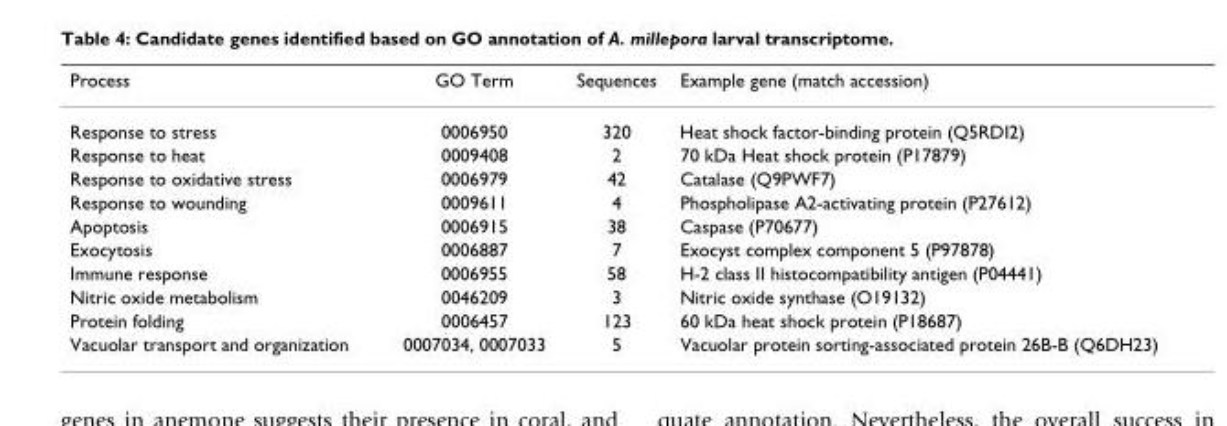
<table><thead><tr><td>Process</td><td>GO Term</td><td>Sequences</td><td>Example gene (match accession)</td></tr></thead><tbody><tr><td>Response to stress</td><td>0006950</td><td>320</td><td>Heat shock factor-binding protein (Q5RDI2)</td></tr><tr><td>Response to heat</td><td>0009408</td><td>2</td><td>70 kDa Heat shock protein (P17879)</td></tr><tr><td>Response to oxidative stress</td><td>0006979</td><td>42</td><td>Catalase (Q9PWF7)</td></tr><tr><td>Response to wounding</td><td>0009611</td><td>4</td><td>Phospholipase A2-activating protein (P27612)</td></tr><tr><td>Apoptosis</td><td>0006915</td><td>38</td><td>Caspase (P70677)</td></tr><tr><td>Exocytosis</td><td>0006887</td><td>7</td><td>Exocyst complex component 5 (P97878)</td></tr><tr><td>Immune response</td><td>0006955</td><td>58</td><td>H-2 class II histocompatibility antigen (P04441)</td></tr><tr><td>Nitric oxide metabolism</td><td>0046209</td><td>3</td><td>Nitric oxide synthase (O19132)</td></tr><tr><td>Protein folding</td><td>0006457</td><td>123</td><td>60 kDa heat shock protein (P18687)</td></tr><tr><td>Vacuolar transport and organization</td><td>0007034, 0007033</td><td>5</td><td>Vacuolar protein sorting-associated protein 26B-B (Q6DH23)</td></tr></tbody></table>